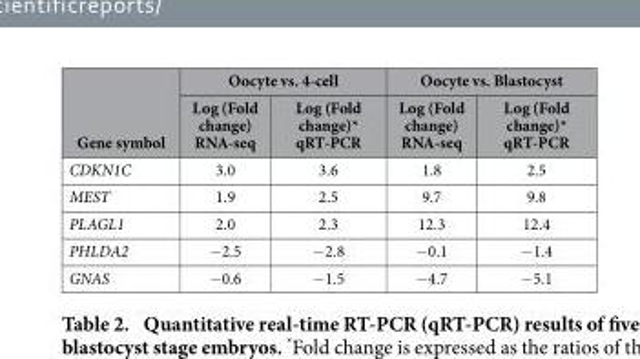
<table><thead><tr><td rowspan="2">Gene symbol</td><td colspan="2">Oocyte vs. 4-cell</td><td colspan="2">Oocyte vs. Blastocyst</td></tr><tr><td>Log (Fold change) RNA-seq</td><td>Log (Fold change)* qRT-PCR</td><td>Log (Fold change) RNA-seq</td><td>Log (Fold change)* qRT-PCR</td></tr></thead><tbody><tr><td>CDKN1C</td><td>3.0</td><td>3.6</td><td>1.8</td><td>2.5</td></tr><tr><td>MEST</td><td>1.9</td><td>2.5</td><td>9.7</td><td>9.8</td></tr><tr><td>PLAGL1</td><td>2.0</td><td>2.3</td><td>12.3</td><td>12.4</td></tr><tr><td>PHLDA2</td><td>−2.5</td><td>−2.8</td><td>−0.1</td><td>−1.4</td></tr><tr><td>GNAS</td><td>−0.6</td><td>−1.5</td><td>−4.7</td><td>−5.1</td></tr></tbody></table>